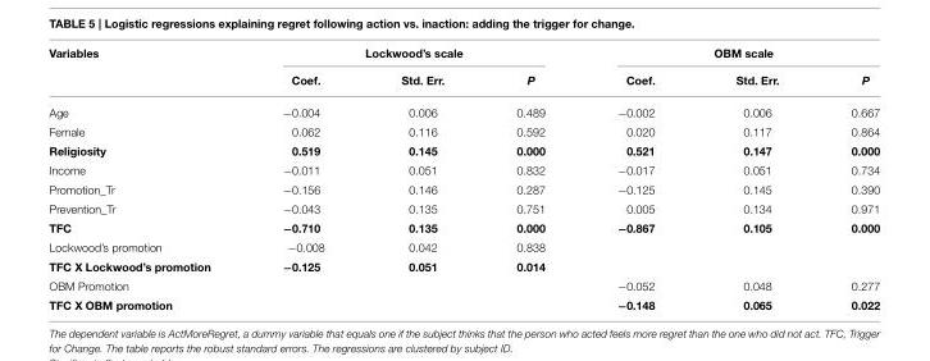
<table><thead><tr><td rowspan="2">Variables</td><td colspan="3">Lockwood’s scale</td><td colspan="3">OBM scale</td></tr><tr><td>Coef.</td><td>Std. Err.</td><td>P</td><td>Coef.</td><td>Std. Err.</td><td>P</td></tr></thead><tbody><tr><td>Age</td><td>−0.004</td><td>0.006</td><td>0.489</td><td>−0.002</td><td>0.006</td><td>0.667</td></tr><tr><td>Female</td><td>0.062</td><td>0.116</td><td>0.592</td><td>0.020</td><td>0.117</td><td>0.864</td></tr><tr><td>Religiosity</td><td>0.519</td><td>0.145</td><td>0.000</td><td>0.521</td><td>0.147</td><td>0.000</td></tr><tr><td>Income</td><td>−0.011</td><td>0.051</td><td>0.832</td><td>−0.017</td><td>0.051</td><td>0.734</td></tr><tr><td>Promotion_Tr</td><td>−0.156</td><td>0.146</td><td>0.287</td><td>−0.125</td><td>0.145</td><td>0.390</td></tr><tr><td>Prevention_Tr</td><td>−0.043</td><td>0.135</td><td>0.751</td><td>0.005</td><td>0.134</td><td>0.971</td></tr><tr><td>TFC</td><td>−0.710</td><td>0.135</td><td>0.000</td><td>−0.867</td><td>0.105</td><td>0.000</td></tr><tr><td>Lockwood’s promotion</td><td>−0.008</td><td>0.042</td><td>0.838</td><td></td><td></td><td></td></tr><tr><td>TFC X Lockwood’s promotion</td><td>−0.125</td><td>0.051</td><td>0.014</td><td></td><td></td><td></td></tr><tr><td>OBM Promotion</td><td></td><td></td><td></td><td>−0.052</td><td>0.048</td><td>0.277</td></tr><tr><td>TFC X OBM promotion</td><td></td><td></td><td></td><td>−0.148</td><td>0.065</td><td>0.022</td></tr></tbody></table>